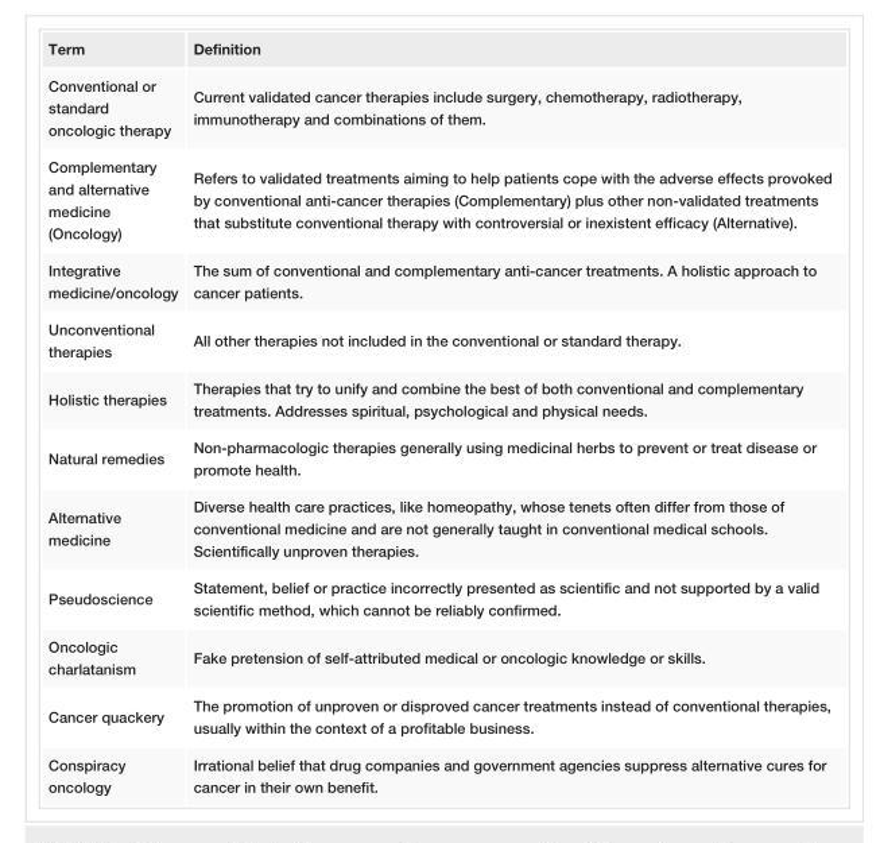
<table><tbody><tr><td>Term</td><td>Definition</td></tr><tr><td>Conventional or standard oncologic therapy</td><td>Current validated cancer therapies include surgery, chemotherapy, radiotherapy, immunotherapy and combinations of them.</td></tr><tr><td>Complementary and alternative medicine (Oncology)</td><td>Refers to validated treatments aiming to help patients cope with the adverse effects provoked by conventional anti-cancer therapies (Complementary) plus other non-validated treatments that substitute conventional therapy with controversial or inexistent efficacy (Alternative).</td></tr><tr><td>Integrative medicine/oncology</td><td>The sum of conventional and complementary anti-cancer treatments. A holistic approach to cancer patients.</td></tr><tr><td>Unconventional therapies</td><td>All other therapies not included in the conventional or standard therapy.</td></tr><tr><td>Holistic therapies</td><td>Therapies that try to unify and combine the best of both conventional and complementary treatments. Addresses spiritual, psychological and physical needs.</td></tr><tr><td>Natural remedies</td><td>Non-pharmacologic therapies generally using medicinal herbs to prevent or treat disease or promote health.</td></tr><tr><td>Alternative medicine</td><td>Diverse health care practices, like homeopathy, whose tenets often differ from those of conventional medicine and are not generally taught in conventional medical schools. Scientifically unproven therapies.</td></tr><tr><td>Pseudoscience</td><td>Statement, belief or practice incorrectly presented as scientific and not supported by a valid scientific method, which cannot be reliably confirmed.</td></tr><tr><td>Oncologic charlatanism</td><td>Fake pretension of self-attributed medical or oncologic knowledge or skills.</td></tr><tr><td>Cancer quackery</td><td>The promotion of unproven or disproved cancer treatments instead of conventional therapies, usually within the context of a profitable business.</td></tr><tr><td>Conspiracy oncology</td><td>Irrational belief that drug companies and government agencies suppress alternative cures for cancer in their own benefit.</td></tr></tbody></table>